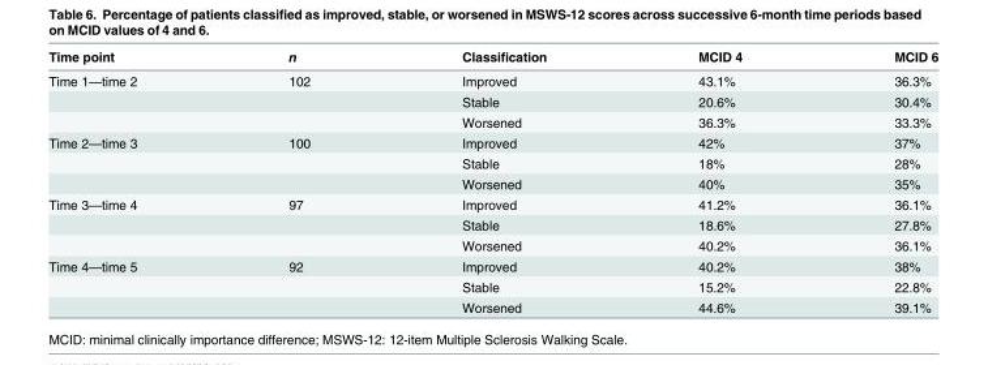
<table><thead><tr><td>Time point</td><td>n</td><td>Classification</td><td>MCID 4</td><td>MCID 6</td></tr></thead><tbody><tr><td rowspan="3">Time 1—time 2</td><td>102</td><td>Improved</td><td>43.1%</td><td>36.3%</td></tr><tr><td></td><td>Stable</td><td>20.6%</td><td>30.4%</td></tr><tr><td></td><td>Worsened</td><td>36.3%</td><td>33.3%</td></tr><tr><td rowspan="3">Time 2—time 3</td><td>100</td><td>Improved</td><td>42%</td><td>37%</td></tr><tr><td></td><td>Stable</td><td>18%</td><td>28%</td></tr><tr><td></td><td>Worsened</td><td>40%</td><td>35%</td></tr><tr><td rowspan="3">Time 3—time 4</td><td>97</td><td>Improved</td><td>41.2%</td><td>36.1%</td></tr><tr><td></td><td>Stable</td><td>18.6%</td><td>27.8%</td></tr><tr><td></td><td>Worsened</td><td>40.2%</td><td>36.1%</td></tr><tr><td rowspan="3">Time 4—time 5</td><td>92</td><td>Improved</td><td>40.2%</td><td>38%</td></tr><tr><td></td><td>Stable</td><td>15.2%</td><td>22.8%</td></tr><tr><td></td><td>Worsened</td><td>44.6%</td><td>39.1%</td></tr></tbody></table>